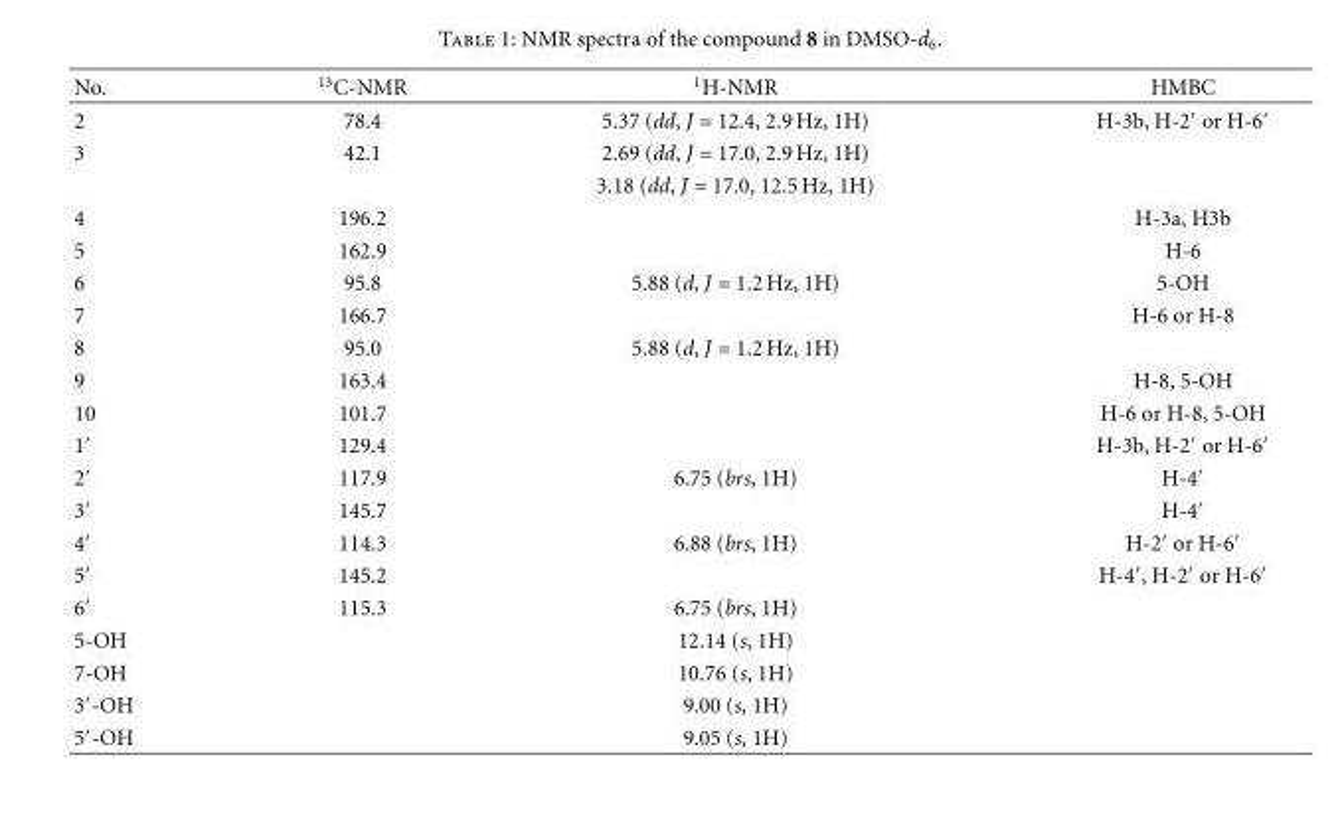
<table><thead><tr><td>No.</td><td><sup>13</sup>C-NMR</td><td><sup>1</sup>H-NMR</td><td>HMBC</td></tr></thead><tbody><tr><td>2</td><td>78.4</td><td>5.37 (dd, J = 12.4, 2.9 Hz, 1H)</td><td>H-3b, H-2′ or H-6′</td></tr><tr><td rowspan="2">3</td><td>42.1</td><td>2.69 (dd, J = 17.0, 2.9 Hz, 1H)</td><td></td></tr><tr><td></td><td>3.18 (dd, J = 17.0, 12.5 Hz, 1H)</td><td></td></tr><tr><td>4</td><td>196.2</td><td></td><td>H-3a, H3b</td></tr><tr><td>5</td><td>162.9</td><td></td><td>H-6</td></tr><tr><td>6</td><td>95.8</td><td>5.88 (d, J = 1.2 Hz, 1H)</td><td>5-OH</td></tr><tr><td>7</td><td>166.7</td><td></td><td>H-6 or H-8</td></tr><tr><td>8</td><td>95.0</td><td>5.88 (d, J = 1.2 Hz, 1H)</td><td></td></tr><tr><td>9</td><td>163.4</td><td></td><td>H-8, 5-OH</td></tr><tr><td>10</td><td>101.7</td><td></td><td>H-6 or H-8, 5-OH</td></tr><tr><td>1′</td><td>129.4</td><td></td><td>H-3b, H-2′ or H-6′</td></tr><tr><td>2′</td><td>117.9</td><td>6.75 (brs, 1H)</td><td>H-4′</td></tr><tr><td>3′</td><td>145.7</td><td></td><td>H-4′</td></tr><tr><td>4′</td><td>114.3</td><td>6.88 (brs, 1H)</td><td>H-2′ or H-6′</td></tr><tr><td>5′</td><td>145.2</td><td></td><td>H-4′, H-2′ or H-6′</td></tr><tr><td>6′</td><td>115.3</td><td>6.75 (brs, 1H)</td><td></td></tr><tr><td>5-OH</td><td></td><td>12.14 (s, 1H)</td><td></td></tr><tr><td>7-OH</td><td></td><td>10.76 (s, 1H)</td><td></td></tr><tr><td>3′-OH</td><td></td><td>9.00 (s, 1H)</td><td></td></tr><tr><td>5′-OH</td><td></td><td>9.05 (s, 1H)</td><td></td></tr></tbody></table>